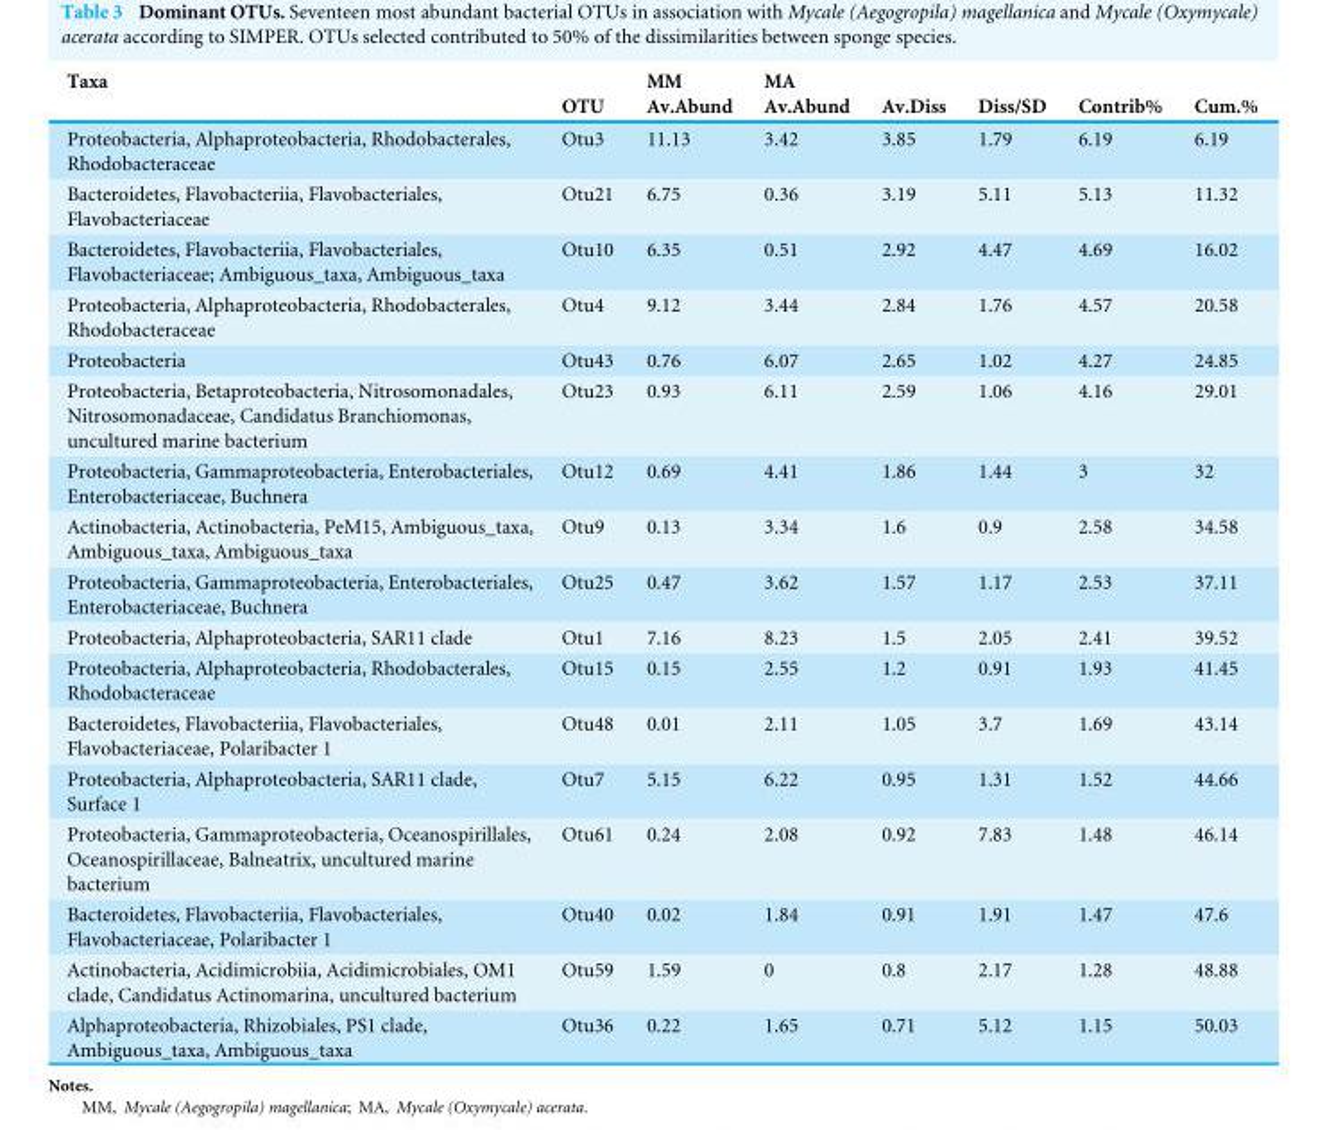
<table><thead><tr><td rowspan="2">Taxa</td><td rowspan="2">OTU</td><td rowspan="2">MM Av.Abund</td><td rowspan="2">MA Av.Abund</td><td rowspan="2">Av.Diss</td><td rowspan="2">Diss/SD</td><td rowspan="2">Contrib%</td><td rowspan="2">Cum.%</td></tr><tr></tr></thead><tbody><tr><td>Proteobacteria, Alphaproteobacteria, Rhodobacterales, Rhodobacteraceae</td><td>Otu3</td><td>11.13</td><td>3.42</td><td>3.85</td><td>1.79</td><td>6.19</td><td>6.19</td></tr><tr><td>Bacteroidetes, Flavobacteriia, Flavobacteriales, Flavobacteriaceae</td><td>Otu21</td><td>6.75</td><td>0.36</td><td>3.19</td><td>5.11</td><td>5.13</td><td>11.32</td></tr><tr><td>Bacteroidetes, Flavobacteriia, Flavobacteriales, Flavobacteriaceae; Ambiguous_taxa, Ambiguous_taxa</td><td>Otu10</td><td>6.35</td><td>0.51</td><td>2.92</td><td>4.47</td><td>4.69</td><td>16.02</td></tr><tr><td>Proteobacteria, Alphaproteobacteria, Rhodobacterales, Rhodobacteraceae</td><td>Otu4</td><td>9.12</td><td>3.44</td><td>2.84</td><td>1.76</td><td>4.57</td><td>20.58</td></tr><tr><td>Proteobacteria</td><td>Otu43</td><td>0.76</td><td>6.07</td><td>2.65</td><td>1.02</td><td>4.27</td><td>24.85</td></tr><tr><td>Proteobacteria, Betaproteobacteria, Nitrosomonadales, Nitrosomonadaceae, Candidatus Branchiomonas, uncultured marine bacterium</td><td>Otu23</td><td>0.93</td><td>6.11</td><td>2.59</td><td>1.06</td><td>4.16</td><td>29.01</td></tr><tr><td>Proteobacteria, Gammaproteobacteria, Enterobacteriales, Enterobacteriaceae, Buchnera</td><td>Otu12</td><td>0.69</td><td>4.41</td><td>1.86</td><td>1.44</td><td>3</td><td>32</td></tr><tr><td>Actinobacteria, Actinobacteria, PeM15, Ambiguous_taxa, Ambiguous_taxa, Ambiguous_taxa</td><td>Otu9</td><td>0.13</td><td>3.34</td><td>1.6</td><td>0.9</td><td>2.58</td><td>34.58</td></tr><tr><td>Proteobacteria, Gammaproteobacteria, Enterobacteriales, Enterobacteriaceae, Buchnera</td><td>Otu25</td><td>0.47</td><td>3.62</td><td>1.57</td><td>1.17</td><td>2.53</td><td>37.11</td></tr><tr><td>Proteobacteria, Alphaproteobacteria, SAR11 clade</td><td>Otu1</td><td>7.16</td><td>8.23</td><td>1.5</td><td>2.05</td><td>2.41</td><td>39.52</td></tr><tr><td>Proteobacteria, Alphaproteobacteria, Rhodobacterales, Rhodobacteraceae</td><td>Otu15</td><td>0.15</td><td>2.55</td><td>1.2</td><td>0.91</td><td>1.93</td><td>41.45</td></tr><tr><td>Bacteroidetes, Flavobacteriia, Flavobacteriales, Flavobacteriaceae, Polaribacter 1</td><td>Otu48</td><td>0.01</td><td>2.11</td><td>1.05</td><td>3.7</td><td>1.69</td><td>43.14</td></tr><tr><td>Proteobacteria, Alphaproteobacteria, SAR11 clade, Surface 1</td><td>Otu7</td><td>5.15</td><td>6.22</td><td>0.95</td><td>1.31</td><td>1.52</td><td>44.66</td></tr><tr><td>Proteobacteria, Gammaproteobacteria, Oceanospirillales, Oceanospirillaceae, Balneatrix, uncultured marine bacterium</td><td>Otu61</td><td>0.24</td><td>2.08</td><td>0.92</td><td>7.83</td><td>1.48</td><td>46.14</td></tr><tr><td>Bacteroidetes, Flavobacteriia, Flavobacteriales, Flavobacteriaceae, Polaribacter 1</td><td>Otu40</td><td>0.02</td><td>1.84</td><td>0.91</td><td>1.91</td><td>1.47</td><td>47.6</td></tr><tr><td>Actinobacteria, Acidimicrobiia, Acidimicrobiales, OM1 clade, Candidatus Actinomarina, uncultured bacterium</td><td>Otu59</td><td>1.59</td><td>0</td><td>0.8</td><td>2.17</td><td>1.28</td><td>48.88</td></tr><tr><td>Alphaproteobacteria, Rhizobiales, PS1 clade, Ambiguous_taxa, Ambiguous_taxa</td><td>Otu36</td><td>0.22</td><td>1.65</td><td>0.71</td><td>5.12</td><td>1.15</td><td>50.03</td></tr></tbody></table>